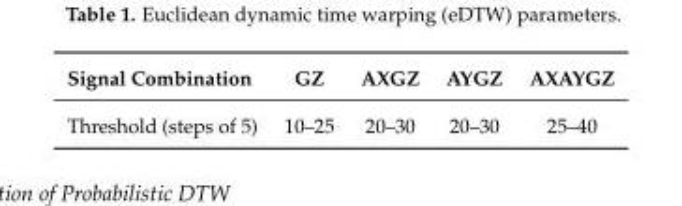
<table><thead><tr><td>Signal Combination</td><td>GZ</td><td>AXGZ</td><td>AYGZ</td><td>AXAYGZ</td></tr></thead><tbody><tr><td>Threshold (steps of 5)</td><td>10–25</td><td>20–30</td><td>20–30</td><td>25–40</td></tr></tbody></table>